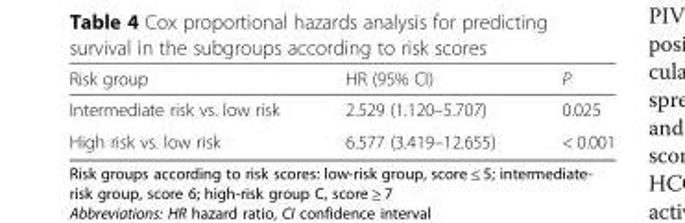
<table><thead><tr><td>Risk group</td><td>HR (95% CI)</td><td>P</td></tr></thead><tbody><tr><td>Intermediate risk vs. low risk</td><td>2.529 (1.120–5.707)</td><td>0.025</td></tr><tr><td>High risk vs. low risk</td><td>6.577 (3.419–12.655)</td><td>&lt; 0.001</td></tr></tbody></table>